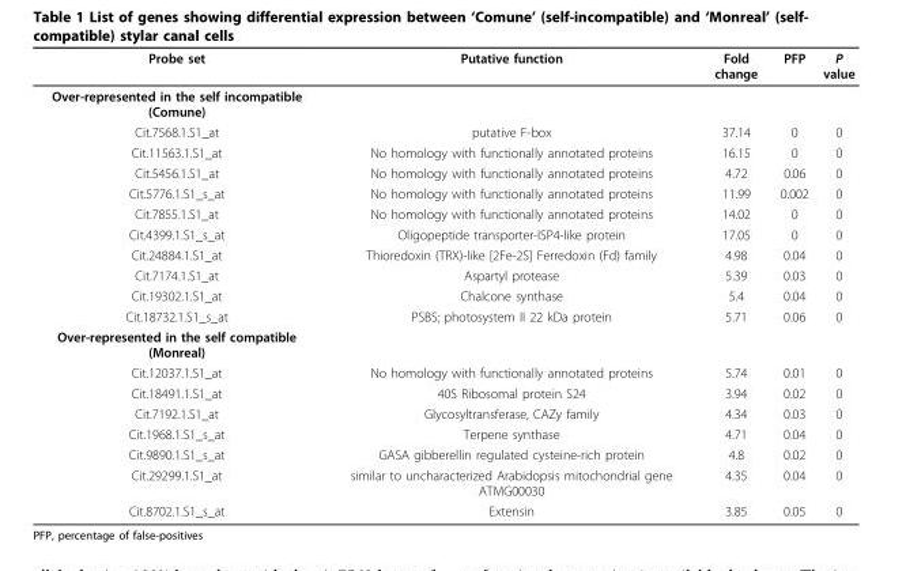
<table><thead><tr><td>Probe set</td><td>Putative function</td><td>Fold change</td><td>PFP</td><td>P value</td></tr></thead><tbody><tr><td colspan="5">Over-represented in the self incompatible (Comune)</td></tr><tr><td>Cit.7568.1.S1_at</td><td>putative F-box</td><td>37.14</td><td>0</td><td>0</td></tr><tr><td>Cit.11563.1.S1_at</td><td>No homology with functionally annotated proteins</td><td>16.15</td><td>0</td><td>0</td></tr><tr><td>Cit.5456.1.S1_at</td><td>No homology with functionally annotated proteins</td><td>4.72</td><td>0.06</td><td>0</td></tr><tr><td>Cit.5776.1.S1_s_at</td><td>No homology with functionally annotated proteins</td><td>11.99</td><td>0.002</td><td>0</td></tr><tr><td>Cit.7855.1.S1_at</td><td>No homology with functionally annotated proteins</td><td>14.02</td><td>0</td><td>0</td></tr><tr><td>Cit.4399.1.S1_s_at</td><td>Oligopeptide transporter-ISP4-like protein</td><td>17.05</td><td>0</td><td>0</td></tr><tr><td>Cit.24884.1.S1_at</td><td>Thioredoxin (TRX)-like [2Fe-2S] Ferredoxin (Fd) family</td><td>4.98</td><td>0.04</td><td>0</td></tr><tr><td>Cit.7174.1.S1_at</td><td>Aspartyl protease</td><td>5.39</td><td>0.03</td><td>0</td></tr><tr><td>Cit.19302.1.S1_at</td><td>Chalcone synthase</td><td>5.4</td><td>0.04</td><td>0</td></tr><tr><td>Cit.18732.1.S1_s_at</td><td>PSBS; photosystem II 22 kDa protein</td><td>5.71</td><td>0.06</td><td>0</td></tr><tr><td colspan="5">Over-represented in the self compatible (Monreal)</td></tr><tr><td>Cit.12037.1.S1_at</td><td>No homology with functionally annotated proteins</td><td>5.74</td><td>0.01</td><td>0</td></tr><tr><td>Cit.18491.1.S1_at</td><td>40S Ribosomal protein S24</td><td>3.94</td><td>0.02</td><td>0</td></tr><tr><td>Cit.7192.1.S1_at</td><td>Glycosyltransferase, CAZy family</td><td>4.34</td><td>0.03</td><td>0</td></tr><tr><td>Cit.1968.1.S1_s_at</td><td>Terpene synthase</td><td>4.71</td><td>0.04</td><td>0</td></tr><tr><td>Cit.9890.1.S1_s_at</td><td>GASA gibberellin regulated cysteine-rich protein</td><td>4.8</td><td>0.02</td><td>0</td></tr><tr><td>Cit.29299.1.S1_at</td><td>similar to uncharacterized Arabidopsis mitochondrial gene ATMG00030</td><td>4.35</td><td>0.04</td><td>0</td></tr><tr><td>Cit.8702.1.S1_s_at</td><td>Extensin</td><td>3.85</td><td>0.05</td><td>0</td></tr></tbody></table>